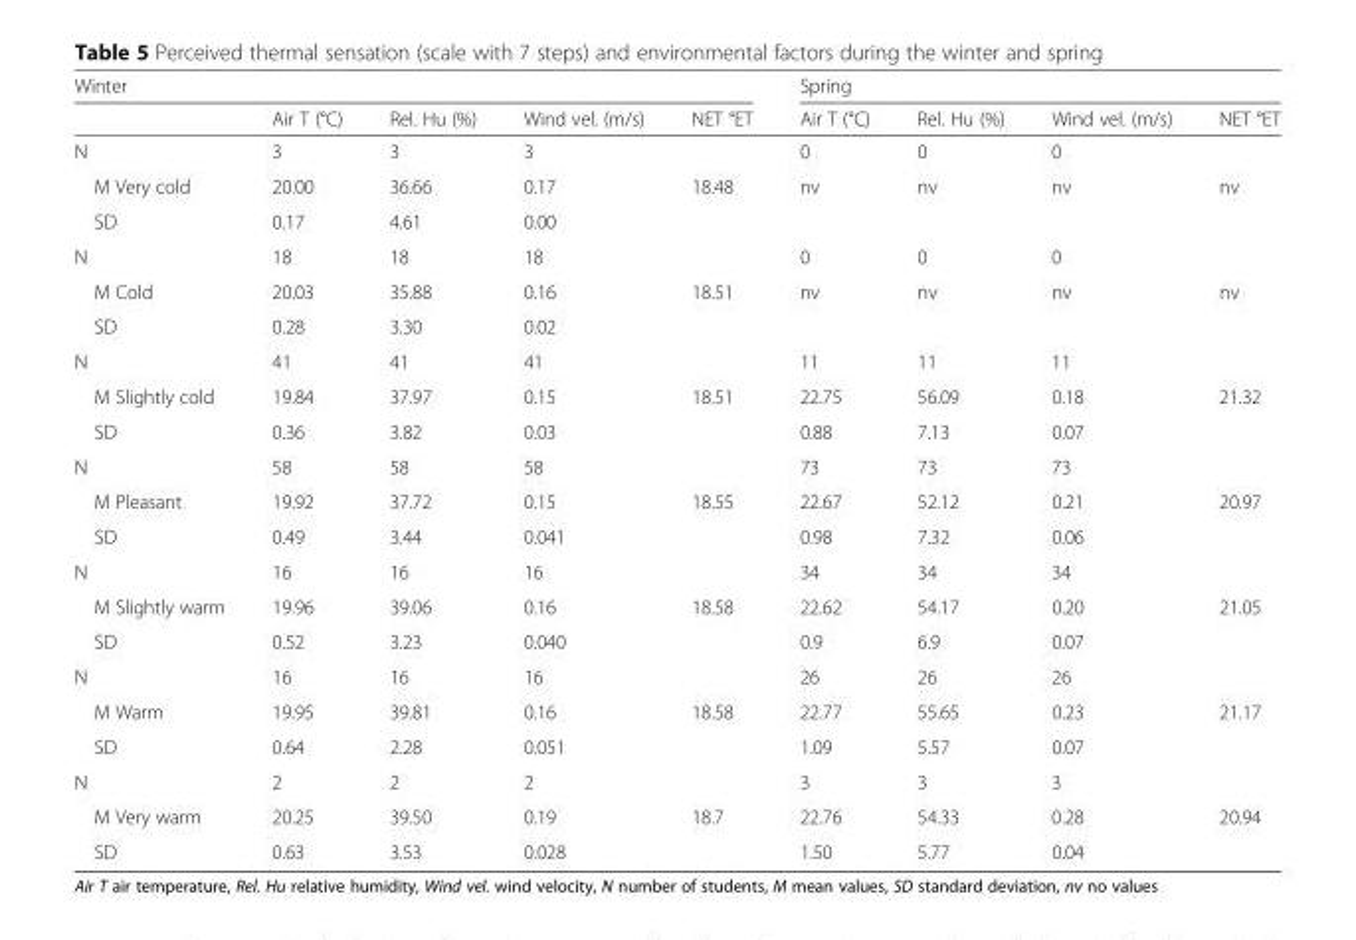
<table><thead><tr><td colspan="5">Winter</td><td colspan="4">Spring</td></tr><tr><td></td><td>Air T (°C)</td><td>Rel. Hu (%)</td><td>Wind vel. (m/s)</td><td>NET °ET</td><td>Air T (°C)</td><td>Rel. Hu (%)</td><td>Wind vel. (m/s)</td><td>NET °ET</td></tr></thead><tbody><tr><td>N</td><td>3</td><td>3</td><td>3</td><td></td><td>0</td><td>0</td><td>0</td><td></td></tr><tr><td>M Very cold</td><td>20.00</td><td>36.66</td><td>0.17</td><td>18.48</td><td>nv</td><td>nv</td><td>nv</td><td>nv</td></tr><tr><td>SD</td><td>0.17</td><td>4.61</td><td>0.00</td><td></td><td></td><td></td><td></td><td></td></tr><tr><td>N</td><td>18</td><td>18</td><td>18</td><td></td><td>0</td><td>0</td><td>0</td><td></td></tr><tr><td>M Cold</td><td>20.03</td><td>35.88</td><td>0.16</td><td>18.51</td><td>nv</td><td>nv</td><td>nv</td><td>nv</td></tr><tr><td>SD</td><td>0.28</td><td>3.30</td><td>0.02</td><td></td><td></td><td></td><td></td><td></td></tr><tr><td>N</td><td>41</td><td>41</td><td>41</td><td></td><td>11</td><td>11</td><td>11</td><td></td></tr><tr><td>M Slightly cold</td><td>19.84</td><td>37.97</td><td>0.15</td><td>18.51</td><td>22.75</td><td>56.09</td><td>0.18</td><td>21.32</td></tr><tr><td>SD</td><td>0.36</td><td>3.82</td><td>0.03</td><td></td><td>0.88</td><td>7.13</td><td>0.07</td><td></td></tr><tr><td>N</td><td>58</td><td>58</td><td>58</td><td></td><td>73</td><td>73</td><td>73</td><td></td></tr><tr><td>M Pleasant</td><td>19.92</td><td>37.72</td><td>0.15</td><td>18.55</td><td>22.67</td><td>52.12</td><td>0.21</td><td>20.97</td></tr><tr><td>SD</td><td>0.49</td><td>3.44</td><td>0.041</td><td></td><td>0.98</td><td>7.32</td><td>0.06</td><td></td></tr><tr><td>N</td><td>16</td><td>16</td><td>16</td><td></td><td>34</td><td>34</td><td>34</td><td></td></tr><tr><td>M Slightly warm</td><td>19.96</td><td>39.06</td><td>0.16</td><td>18.58</td><td>22.62</td><td>54.17</td><td>0.20</td><td>21.05</td></tr><tr><td>SD</td><td>0.52</td><td>3.23</td><td>0.040</td><td></td><td>0.9</td><td>6.9</td><td>0.07</td><td></td></tr><tr><td>N</td><td>16</td><td>16</td><td>16</td><td></td><td>26</td><td>26</td><td>26</td><td></td></tr><tr><td>M Warm</td><td>19.95</td><td>39.81</td><td>0.16</td><td>18.58</td><td>22.77</td><td>55.65</td><td>0.23</td><td>21.17</td></tr><tr><td>SD</td><td>0.64</td><td>2.28</td><td>0.051</td><td></td><td>1.09</td><td>5.57</td><td>0.07</td><td></td></tr><tr><td>N</td><td>2</td><td>2</td><td>2</td><td></td><td>3</td><td>3</td><td>3</td><td></td></tr><tr><td>M Very warm</td><td>20.25</td><td>39.50</td><td>0.19</td><td>18.7</td><td>22.76</td><td>54.33</td><td>0.28</td><td>20.94</td></tr><tr><td>SD</td><td>0.63</td><td>3.53</td><td>0.028</td><td></td><td>1.50</td><td>5.77</td><td>0.04</td><td></td></tr></tbody></table>